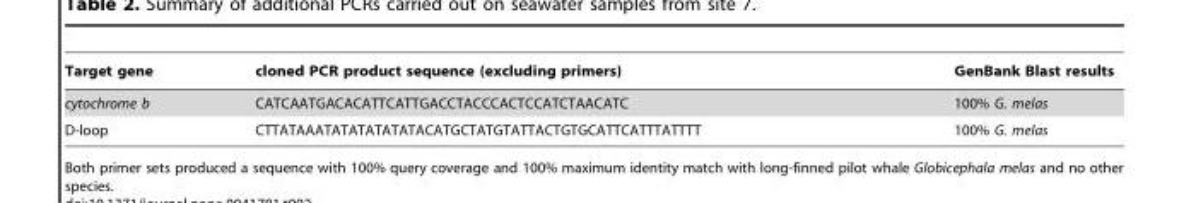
<table><thead><tr><td>Target gene</td><td>cloned PCR product sequence (excluding primers)</td><td>GenBank Blast results</td></tr></thead><tbody><tr><td>cytochrome b</td><td>CATCAATGACACATTCATTGACCTACCCACTCCATCTAACATC</td><td>100% G. melas</td></tr><tr><td>D-loop</td><td>CTTATAAATATATATATATACATGCTATGTATTACTGTGCATTCATTTATTTT</td><td>100% G. melas</td></tr></tbody></table>